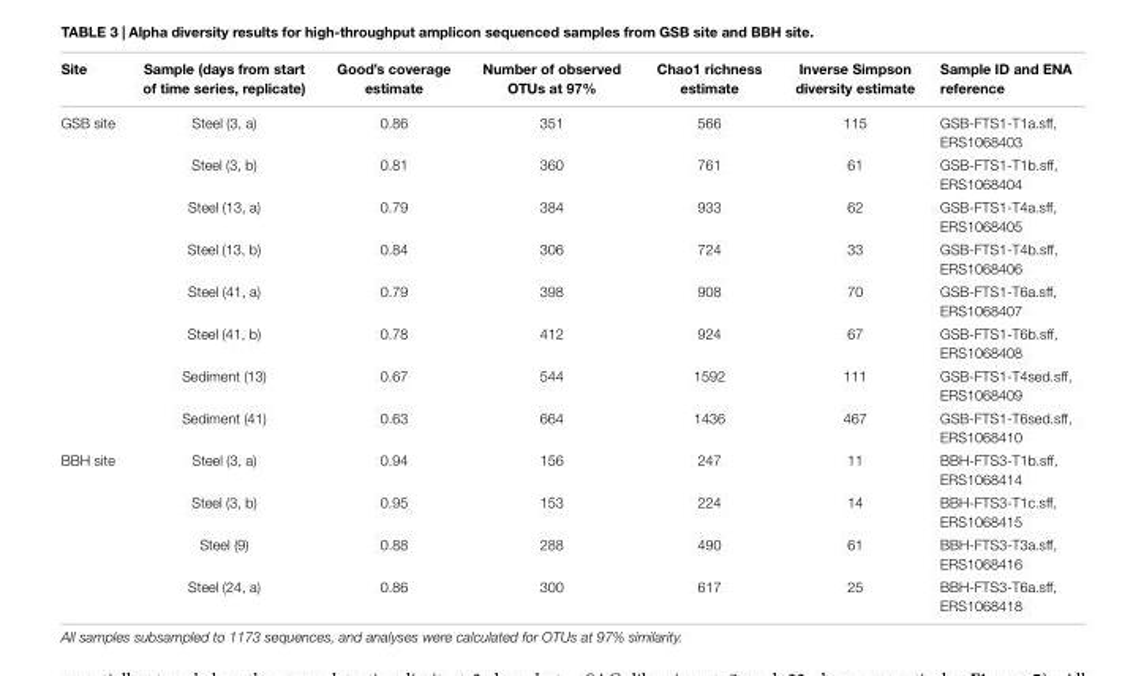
<table><thead><tr><td>Site</td><td>Sample (days from start of time series, replicate)</td><td>Good’s coverage estimate</td><td>Number of observed OTUs at 97%</td><td>Chao1 richness estimate</td><td>Inverse Simpson diversity estimate</td><td>Sample ID and ENA reference</td></tr></thead><tbody><tr><td rowspan="8">GSB site</td><td>Steel (3, a)</td><td>0.86</td><td>351</td><td>566</td><td>115</td><td>GSB-FTS1-T1a.sff, ERS1068403</td></tr><tr><td>Steel (3, b)</td><td>0.81</td><td>360</td><td>761</td><td>61</td><td>GSB-FTS1-T1b.sff, ERS1068404</td></tr><tr><td>Steel (13, a)</td><td>0.79</td><td>384</td><td>933</td><td>62</td><td>GSB-FTS1-T4a.sff, ERS1068405</td></tr><tr><td>Steel (13, b)</td><td>0.84</td><td>306</td><td>724</td><td>33</td><td>GSB-FTS1-T4b.sff, ERS1068406</td></tr><tr><td>Steel (41, a)</td><td>0.79</td><td>398</td><td>908</td><td>70</td><td>GSB-FTS1-T6a.sff, ERS1068407</td></tr><tr><td>Steel (41, b)</td><td>0.78</td><td>412</td><td>924</td><td>67</td><td>GSB-FTS1-T6b.sff, ERS1068408</td></tr><tr><td>Sediment (13)</td><td>0.67</td><td>544</td><td>1592</td><td>111</td><td>GSB-FTS1-T4sed.sff, ERS1068409</td></tr><tr><td>Sediment (41)</td><td>0.63</td><td>664</td><td>1436</td><td>467</td><td>GSB-FTS1-T6sed.sff, ERS1068410</td></tr><tr><td rowspan="4">BBH site</td><td>Steel (3, a)</td><td>0.94</td><td>156</td><td>247</td><td>11</td><td>BBH-FTS3-T1b.sff, ERS1068414</td></tr><tr><td>Steel (3, b)</td><td>0.95</td><td>153</td><td>224</td><td>14</td><td>BBH-FTS3-T1c.sff, ERS1068415</td></tr><tr><td>Steel (9)</td><td>0.88</td><td>288</td><td>490</td><td>61</td><td>BBH-FTS3-T3a.sff, ERS1068416</td></tr><tr><td>Steel (24, a)</td><td>0.86</td><td>300</td><td>617</td><td>25</td><td>BBH-FTS3-T6a.sff, ERS1068418</td></tr></tbody></table>